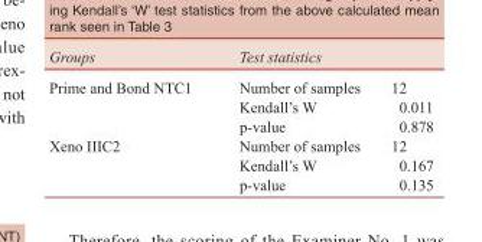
<table><tbody><tr><td>Groups</td><td>Test statistics</td><td></td></tr><tr><td rowspan="3">Prime and Bond NTC1</td><td>Number of samples</td><td>12</td></tr><tr><td>Kendall’s W</td><td>0.011</td></tr><tr><td>p-value</td><td>0.878</td></tr><tr><td rowspan="3">Xeno IIIC2</td><td>Number of samples</td><td>12</td></tr><tr><td>Kendall’s W</td><td>0.167</td></tr><tr><td>p-value</td><td>0.135</td></tr></tbody></table>